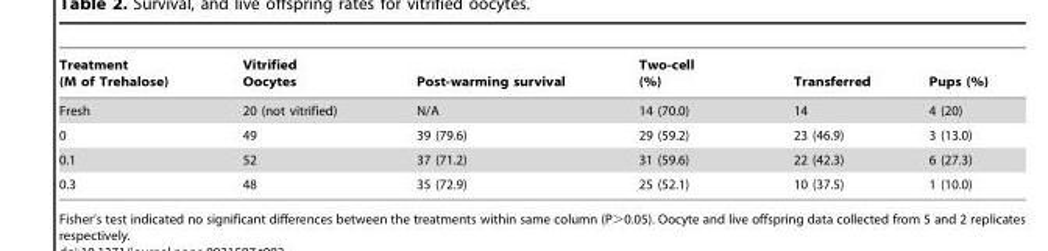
<table><thead><tr><td>Treatment (M of Trehalose)</td><td>Vitrified Oocytes</td><td>Post-warming survival</td><td>Two-cell (%)</td><td>Transferred</td><td>Pups (%)</td></tr></thead><tbody><tr><td>Fresh</td><td>20 (not vitrified)</td><td>N/A</td><td>14 (70.0)</td><td>14</td><td>4 (20)</td></tr><tr><td>0</td><td>49</td><td>39 (79.6)</td><td>29 (59.2)</td><td>23 (46.9)</td><td>3 (13.0)</td></tr><tr><td>0.1</td><td>52</td><td>37 (71.2)</td><td>31 (59.6)</td><td>22 (42.3)</td><td>6 (27.3)</td></tr><tr><td>0.3</td><td>48</td><td>35 (72.9)</td><td>25 (52.1)</td><td>10 (37.5)</td><td>1 (10.0)</td></tr></tbody></table>